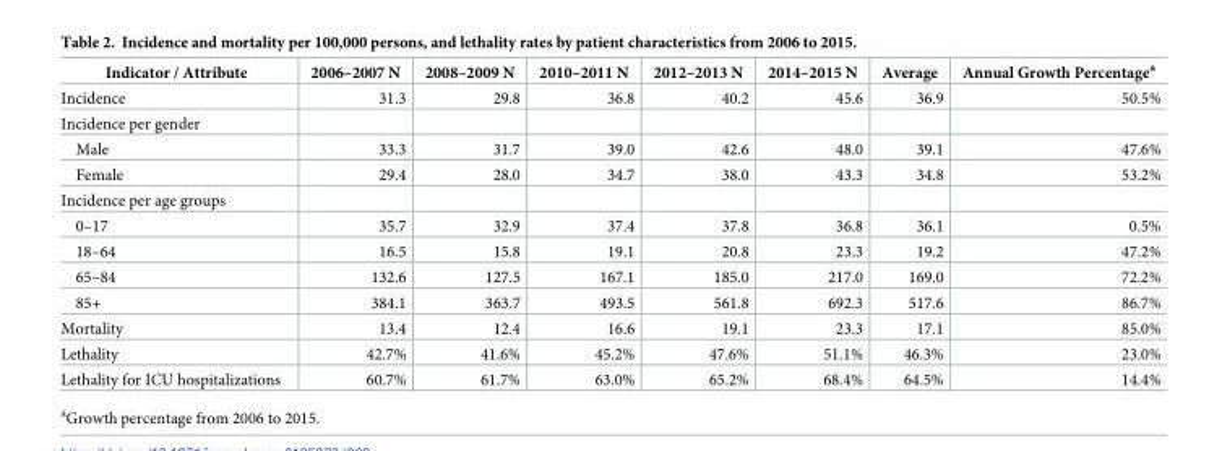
<table><thead><tr><td>Indicator / Attribute</td><td>2006–2007 N</td><td>2008–2009 N</td><td>2010–2011 N</td><td>2012–2013 N</td><td>2014–2015 N</td><td>Average</td><td>Annual Growth Percentage<sup>a</sup></td></tr></thead><tbody><tr><td>Incidence</td><td>31.3</td><td>29.8</td><td>36.8</td><td>40.2</td><td>45.6</td><td>36.9</td><td>50.5%</td></tr><tr><td colspan="8">Incidence per gender</td></tr><tr><td>Male</td><td>33.3</td><td>31.7</td><td>39.0</td><td>42.6</td><td>48.0</td><td>39.1</td><td>47.6%</td></tr><tr><td>Female</td><td>29.4</td><td>28.0</td><td>34.7</td><td>38.0</td><td>43.3</td><td>34.8</td><td>53.2%</td></tr><tr><td colspan="8">Incidence per age groups</td></tr><tr><td>0–17</td><td>35.7</td><td>32.9</td><td>37.4</td><td>37.8</td><td>36.8</td><td>36.1</td><td>0.5%</td></tr><tr><td>18–64</td><td>16.5</td><td>15.8</td><td>19.1</td><td>20.8</td><td>23.3</td><td>19.2</td><td>47.2%</td></tr><tr><td>65–84</td><td>132.6</td><td>127.5</td><td>167.1</td><td>185.0</td><td>217.0</td><td>169.0</td><td>72.2%</td></tr><tr><td>85+</td><td>384.1</td><td>363.7</td><td>493.5</td><td>561.8</td><td>692.3</td><td>517.6</td><td>86.7%</td></tr><tr><td>Mortality</td><td>13.4</td><td>12.4</td><td>16.6</td><td>19.1</td><td>23.3</td><td>17.1</td><td>85.0%</td></tr><tr><td>Lethality</td><td>42.7%</td><td>41.6%</td><td>45.2%</td><td>47.6%</td><td>51.1%</td><td>46.3%</td><td>23.0%</td></tr><tr><td>Lethality for ICU hospitalizations</td><td>60.7%</td><td>61.7%</td><td>63.0%</td><td>65.2%</td><td>68.4%</td><td>64.5%</td><td>14.4%</td></tr></tbody></table>